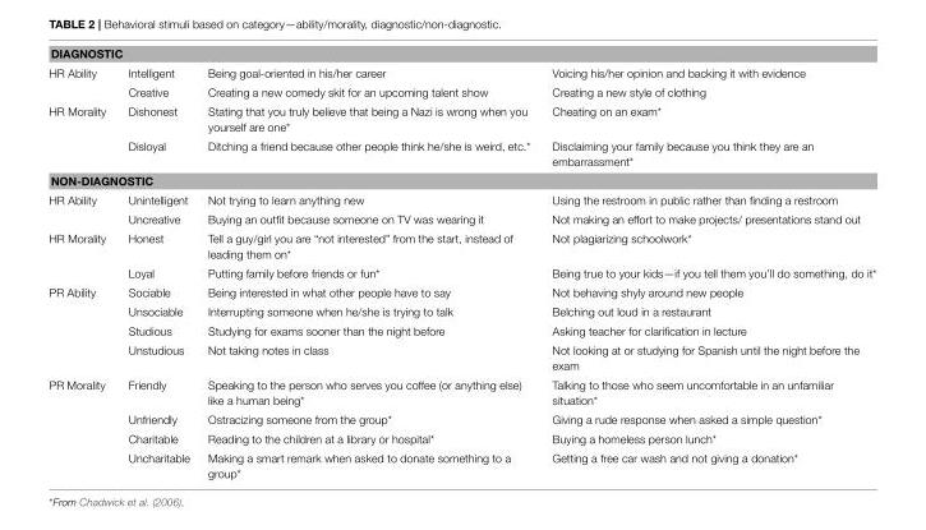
<table><tbody><tr><td colspan="4">DIAGNOSTIC</td></tr><tr><td rowspan="2">HR Ability</td><td>Intelligent</td><td>Being goal-oriented in his/her career</td><td>Voicing his/her opinion and backing it with evidence</td></tr><tr><td>Creative</td><td>Creating a new comedy skit for an upcoming talent show</td><td>Creating a new style of clothing</td></tr><tr><td rowspan="2">HR Morality</td><td>Dishonest</td><td>Stating that you truly believe that being a Nazi is wrong when you yourself are one*</td><td>Cheating on an exam*</td></tr><tr><td>Disloyal</td><td>Ditching a friend because other people think he/she is weird, etc.*</td><td>Disclaiming your family because you think they are an embarrassment*</td></tr><tr><td colspan="4">NON-DIAGNOSTIC</td></tr><tr><td rowspan="2">HR Ability</td><td>Unintelligent</td><td>Not trying to learn anything new</td><td>Using the restroom in public rather than finding a restroom</td></tr><tr><td>Uncreative</td><td>Buying an outfit because someone on TV was wearing it</td><td>Not making an effort to make projects/ presentations stand out</td></tr><tr><td rowspan="2">HR Morality</td><td>Honest</td><td>Tell a guy/girl you are “not interested” from the start, instead of leading them on*</td><td>Not plagiarizing schoolwork*</td></tr><tr><td>Loyal</td><td>Putting family before friends or fun*</td><td>Being true to your kids—if you tell them you’ll do something, do it*</td></tr><tr><td rowspan="4">PR Ability</td><td>Sociable</td><td>Being interested in what other people have to say</td><td>Not behaving shyly around new people</td></tr><tr><td>Unsociable</td><td>Interrupting someone when he/she is trying to talk</td><td>Belching out loud in a restaurant</td></tr><tr><td>Studious</td><td>Studying for exams sooner than the night before</td><td>Asking teacher for clarification in lecture</td></tr><tr><td>Unstudious</td><td>Not taking notes in class</td><td>Not looking at or studying for Spanish until the night before the exam</td></tr><tr><td rowspan="4">PR Morality</td><td>Friendly</td><td>Speaking to the person who serves you coffee (or anything else) like a human being*</td><td>Talking to those who seem uncomfortable in an unfamiliar situation*</td></tr><tr><td>Unfriendly</td><td>Ostracizing someone from the group*</td><td>Giving a rude response when asked a simple question*</td></tr><tr><td>Charitable</td><td>Reading to the children at a library or hospital*</td><td>Buying a homeless person lunch*</td></tr><tr><td>Uncharitable</td><td>Making a smart remark when asked to donate something to a group*</td><td>Getting a free car wash and not giving a donation*</td></tr></tbody></table>